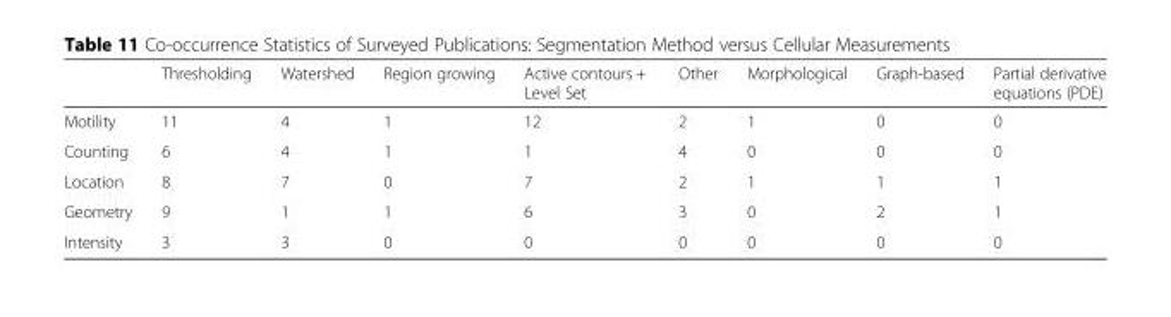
<table><thead><tr><td></td><td>Thresholding</td><td>Watershed</td><td>Region growing</td><td>Active contours + Level Set</td><td>Other</td><td>Morphological</td><td>Graph-based</td><td>Partial derivative equations (PDE)</td></tr></thead><tbody><tr><td>Motility</td><td>11</td><td>4</td><td>1</td><td>12</td><td>2</td><td>1</td><td>0</td><td>0</td></tr><tr><td>Counting</td><td>6</td><td>4</td><td>1</td><td>1</td><td>4</td><td>0</td><td>0</td><td>0</td></tr><tr><td>Location</td><td>8</td><td>7</td><td>0</td><td>7</td><td>2</td><td>1</td><td>1</td><td>1</td></tr><tr><td>Geometry</td><td>9</td><td>1</td><td>1</td><td>6</td><td>3</td><td>0</td><td>2</td><td>1</td></tr><tr><td>Intensity</td><td>3</td><td>3</td><td>0</td><td>0</td><td>0</td><td>0</td><td>0</td><td>0</td></tr></tbody></table>